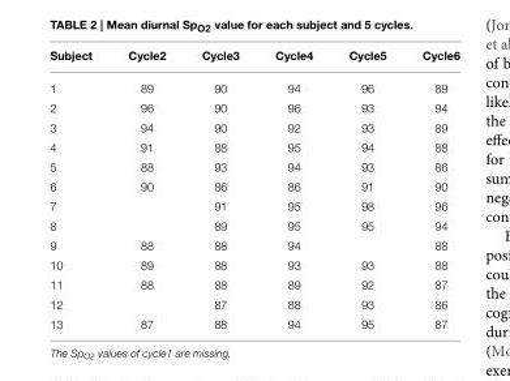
<table><thead><tr><td>Subject</td><td>Cycle2</td><td>Cycle3</td><td>Cycle4</td><td>Cycle5</td><td>Cycle6</td></tr></thead><tbody><tr><td>1</td><td>89</td><td>90</td><td>94</td><td>96</td><td>89</td></tr><tr><td>2</td><td>96</td><td>90</td><td>96</td><td>93</td><td>94</td></tr><tr><td>3</td><td>94</td><td>90</td><td>92</td><td>93</td><td>89</td></tr><tr><td>4</td><td>91</td><td>88</td><td>95</td><td>94</td><td>88</td></tr><tr><td>5</td><td>88</td><td>93</td><td>94</td><td>93</td><td>86</td></tr><tr><td>6</td><td>90</td><td>86</td><td>86</td><td>91</td><td>90</td></tr><tr><td>7</td><td></td><td>91</td><td>95</td><td>98</td><td>96</td></tr><tr><td>8</td><td></td><td>89</td><td>95</td><td>95</td><td>94</td></tr><tr><td>9</td><td>88</td><td>88</td><td>94</td><td></td><td>88</td></tr><tr><td>10</td><td>89</td><td>88</td><td>93</td><td>93</td><td>88</td></tr><tr><td>11</td><td>88</td><td>88</td><td>89</td><td>92</td><td>87</td></tr><tr><td>12</td><td></td><td>87</td><td>88</td><td>93</td><td>86</td></tr><tr><td>13</td><td>87</td><td>88</td><td>94</td><td>95</td><td>87</td></tr></tbody></table>